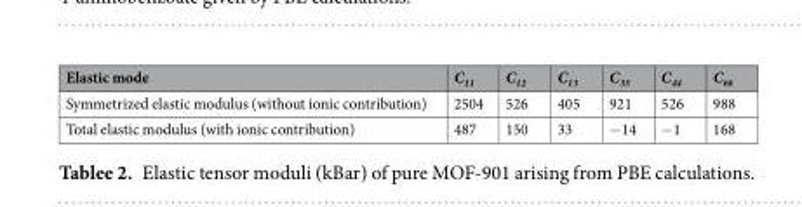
<table><thead><tr><td>Elastic mode</td><td>C<sub>11</sub></td><td>C<sub>12</sub></td><td>C<sub>13</sub></td><td>C<sub>33</sub></td><td>C<sub>44</sub></td><td>C<sub>66</sub></td></tr></thead><tbody><tr><td>Symmetrized elastic modulus (without ionic contribution)</td><td>2504</td><td>526</td><td>405</td><td>921</td><td>526</td><td>988</td></tr><tr><td>Total elastic modulus (with ionic contribution)</td><td>487</td><td>150</td><td>33</td><td>−14</td><td>−1</td><td>168</td></tr></tbody></table>